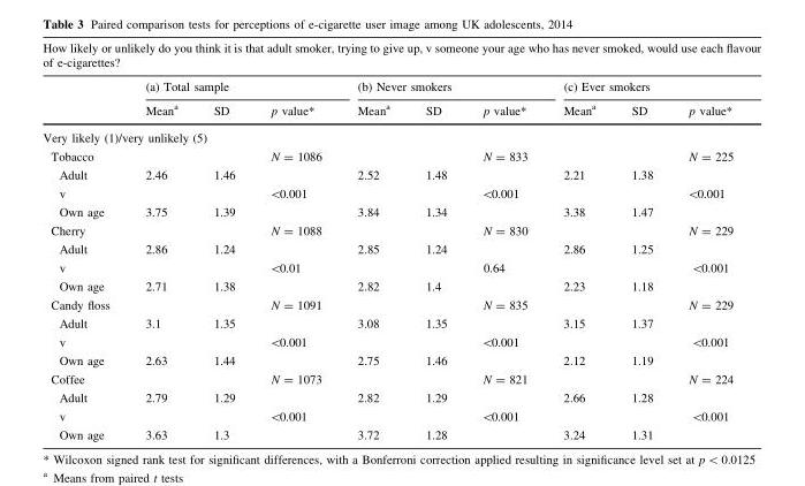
<table><thead><tr><td colspan="10">How likely or unlikely do you think it is that adult smoker, trying to give up, v someone your age who has never smoked, would use each flavour of e-cigarettes?</td></tr><tr><td rowspan="2"></td><td colspan="3">(a) Total sample</td><td colspan="3">(b) Never smokers</td><td colspan="3">(c) Ever smokers</td></tr><tr><td>Mean<sup>a</sup></td><td>SD</td><td>p value*</td><td>Mean<sup>a</sup></td><td>SD</td><td>p value*</td><td>Mean<sup>a</sup></td><td>SD</td><td>p value*</td></tr></thead><tbody><tr><td colspan="10">Very likely (1)/very unlikely (5)</td></tr><tr><td>Tobacco</td><td></td><td></td><td>N = 1086</td><td></td><td></td><td>N = 833</td><td></td><td></td><td>N = 225</td></tr><tr><td>Adult</td><td>2.46</td><td>1.46</td><td></td><td>2.52</td><td>1.48</td><td></td><td>2.21</td><td>1.38</td><td></td></tr><tr><td>v</td><td></td><td></td><td>&lt;0.001</td><td></td><td></td><td>&lt;0.001</td><td></td><td></td><td>&lt;0.001</td></tr><tr><td>Own age</td><td>3.75</td><td>1.39</td><td></td><td>3.84</td><td>1.34</td><td></td><td>3.38</td><td>1.47</td><td></td></tr><tr><td>Cherry</td><td></td><td></td><td>N = 1088</td><td></td><td></td><td>N = 830</td><td></td><td></td><td>N = 229</td></tr><tr><td>Adult</td><td>2.86</td><td>1.24</td><td></td><td>2.85</td><td>1.24</td><td></td><td>2.86</td><td>1.25</td><td></td></tr><tr><td>v</td><td></td><td></td><td>&lt;0.01</td><td></td><td></td><td>0.64</td><td></td><td></td><td>&lt;0.001</td></tr><tr><td>Own age</td><td>2.71</td><td>1.38</td><td></td><td>2.82</td><td>1.4</td><td></td><td>2.23</td><td>1.18</td><td></td></tr><tr><td>Candy floss</td><td></td><td></td><td>N = 1091</td><td></td><td></td><td>N = 835</td><td></td><td></td><td>N = 229</td></tr><tr><td>Adult</td><td>3.1</td><td>1.35</td><td></td><td>3.08</td><td>1.35</td><td></td><td>3.15</td><td>1.37</td><td></td></tr><tr><td>v</td><td></td><td></td><td>&lt;0.001</td><td></td><td></td><td>&lt;0.001</td><td></td><td></td><td>&lt;0.001</td></tr><tr><td>Own age</td><td>2.63</td><td>1.44</td><td></td><td>2.75</td><td>1.46</td><td></td><td>2.12</td><td>1.19</td><td></td></tr><tr><td>Coffee</td><td></td><td></td><td>N = 1073</td><td></td><td></td><td>N = 821</td><td></td><td></td><td>N = 224</td></tr><tr><td>Adult</td><td>2.79</td><td>1.29</td><td></td><td>2.82</td><td>1.29</td><td></td><td>2.66</td><td>1.28</td><td></td></tr><tr><td>v</td><td></td><td></td><td>&lt;0.001</td><td></td><td></td><td>&lt;0.001</td><td></td><td></td><td>&lt;0.001</td></tr><tr><td>Own age</td><td>3.63</td><td>1.3</td><td></td><td>3.72</td><td>1.28</td><td></td><td>3.24</td><td>1.31</td><td></td></tr></tbody></table>